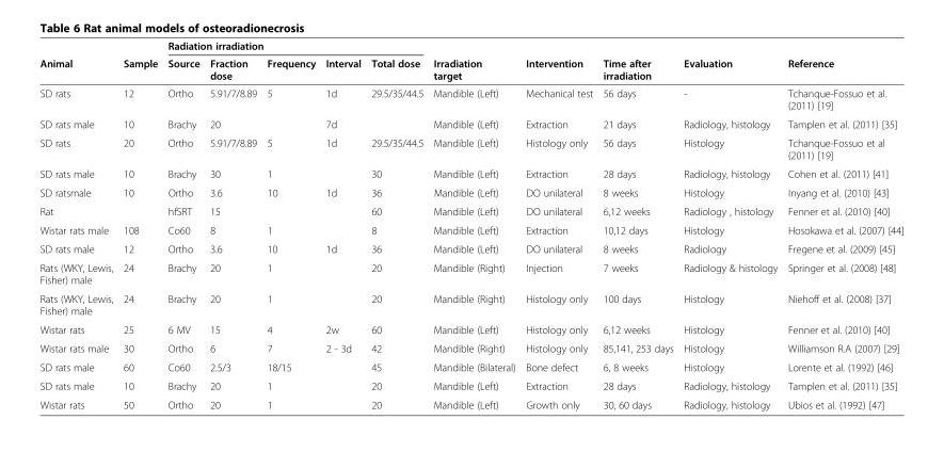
<table><thead><tr><td rowspan="2">Animal</td><td rowspan="2">Sample</td><td colspan="5">Radiation irradiation</td><td rowspan="2">Irradiation target</td><td rowspan="2">Intervention</td><td rowspan="2">Time after irradiation</td><td rowspan="2">Evaluation</td><td rowspan="2">Reference</td></tr><tr><td>Source</td><td>Fraction dose</td><td>Frequency</td><td>Interval</td><td>Total dose</td></tr></thead><tbody><tr><td>SD rats</td><td>12</td><td>Ortho</td><td>5.91/7/8.89</td><td>5</td><td>1d</td><td>29.5/35/44.5</td><td>Mandible (Left)</td><td>Mechanical test</td><td>56 days</td><td>-</td><td>Tchanque-Fossuo et al. (2011) [19]</td></tr><tr><td>SD rats male</td><td>10</td><td>Brachy</td><td>20</td><td></td><td>7d</td><td></td><td>Mandible (Left)</td><td>Extraction</td><td>21 days</td><td>Radiology, histology</td><td>Tamplen et al. (2011) [35]</td></tr><tr><td>SD rats</td><td>20</td><td>Ortho</td><td>5.91/7/8.89</td><td>5</td><td>1d</td><td>29.5/35/44.5</td><td>Mandible (Left)</td><td>Histology only</td><td>56 days</td><td>Histology</td><td>Tchanque-Fossuo et al (2011) [19]</td></tr><tr><td>SD rats male</td><td>10</td><td>Brachy</td><td>30</td><td>1</td><td></td><td>30</td><td>Mandible (Left)</td><td>Extraction</td><td>28 days</td><td>Radiology, histology</td><td>Cohen et al. (2011) [41]</td></tr><tr><td>SD ratsmale</td><td>10</td><td>Ortho</td><td>3.6</td><td>10</td><td>1d</td><td>36</td><td>Mandible (Left)</td><td>DO unilateral</td><td>8 weeks</td><td>Histology</td><td>Inyang et al. (2010) [43]</td></tr><tr><td>Rat</td><td></td><td>hfSRT</td><td>15</td><td></td><td></td><td>60</td><td>Mandible (Left)</td><td>DO unilateral</td><td>6,12 weeks</td><td>Radiology , histology</td><td>Fenner et al. (2010) [40]</td></tr><tr><td>Wistar rats male</td><td>108</td><td>Co60</td><td>8</td><td>1</td><td></td><td>8</td><td>Mandible (Left)</td><td>Extraction</td><td>10,12 days</td><td>Histology</td><td>Hosokawa et al. (2007) [44]</td></tr><tr><td>SD rats male</td><td>12</td><td>Ortho</td><td>3.6</td><td>10</td><td>1d</td><td>36</td><td>Mandible (Left)</td><td>DO unilateral</td><td>8 weeks</td><td>Radiology</td><td>Fregene et al. (2009) [45]</td></tr><tr><td>Rats (WKY, Lewis, Fisher) male</td><td>24</td><td>Brachy</td><td>20</td><td>1</td><td></td><td>20</td><td>Mandible (Right)</td><td>Injection</td><td>7 weeks</td><td>Radiology &amp; histology</td><td>Springer et al. (2008) [48]</td></tr><tr><td>Rats (WKY, Lewis, Fisher) male</td><td>24</td><td>Brachy</td><td>20</td><td>1</td><td></td><td>20</td><td>Mandible (Right)</td><td>Histology only</td><td>100 days</td><td>Histology</td><td>Niehoff et al. (2008) [37]</td></tr><tr><td>Wistar rats</td><td>25</td><td>6 MV</td><td>15</td><td>4</td><td>2w</td><td>60</td><td>Mandible (Left)</td><td>Histology only</td><td>6,12 weeks</td><td>Histology</td><td>Fenner et al. (2010) [40]</td></tr><tr><td>Wistar rats male</td><td>30</td><td>Ortho</td><td>6</td><td>7</td><td>2 - 3d</td><td>42</td><td>Mandible (Right)</td><td>Histology only</td><td>85,141, 253 days</td><td>Histology</td><td>Williamson R.A (2007) [29]</td></tr><tr><td>SD rats male</td><td>60</td><td>Co60</td><td>2.5/3</td><td>18/15</td><td></td><td>45</td><td>Mandible (Bilateral)</td><td>Bone defect</td><td>6, 8 weeks</td><td>Histology</td><td>Lorente et al. (1992) [46]</td></tr><tr><td>SD rats male</td><td>10</td><td>Brachy</td><td>20</td><td>1</td><td></td><td>20</td><td>Mandible (Left)</td><td>Extraction</td><td>28 days</td><td>Radiology, histology</td><td>Tamplen et al. (2011) [35]</td></tr><tr><td>Wistar rats</td><td>50</td><td>Ortho</td><td>20</td><td>1</td><td></td><td>20</td><td>Mandible (Left)</td><td>Growth only</td><td>30, 60 days</td><td>Radiology, histology</td><td>Ubios et al. (1992) [47]</td></tr></tbody></table>